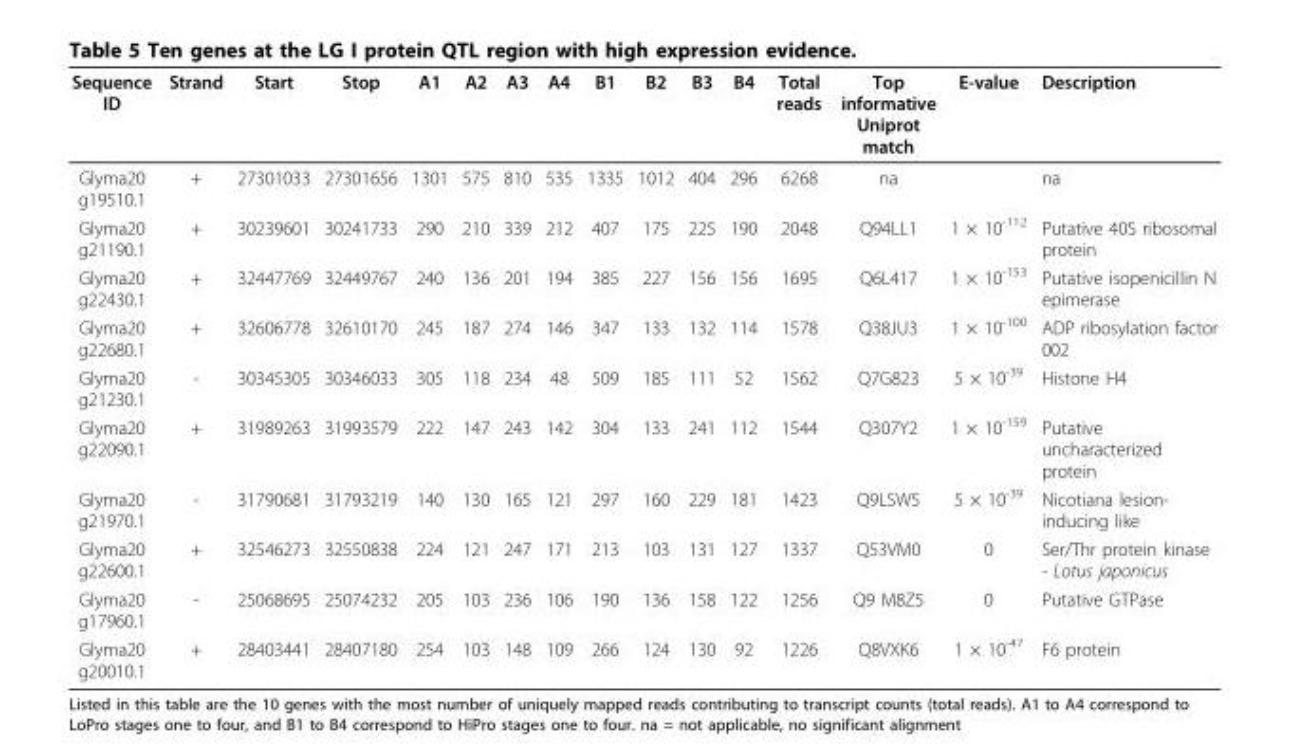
<table><thead><tr><td>Sequence ID</td><td>Strand</td><td>Start</td><td>Stop</td><td>A1</td><td>A2</td><td>A3</td><td>A4</td><td>B1</td><td>B2</td><td>B3</td><td>B4</td><td>Total reads</td><td>Top informative Uniprot match</td><td>E-value</td><td>Description</td></tr></thead><tbody><tr><td>Glyma20 g19510.1</td><td>+</td><td>27301033</td><td>27301656</td><td>1301</td><td>575</td><td>810</td><td>535</td><td>1335</td><td>1012</td><td>404</td><td>296</td><td>6268</td><td>na</td><td></td><td>na</td></tr><tr><td>Glyma20 g21190.1</td><td>+</td><td>30239601</td><td>30241733</td><td>290</td><td>210</td><td>339</td><td>212</td><td>407</td><td>175</td><td>225</td><td>190</td><td>2048</td><td>Q94LL1</td><td>1 × 10<sup>-112</sup></td><td>Putative 40S ribosomal protein</td></tr><tr><td>Glyma20 g22430.1</td><td>+</td><td>32447769</td><td>32449767</td><td>240</td><td>136</td><td>201</td><td>194</td><td>385</td><td>227</td><td>156</td><td>156</td><td>1695</td><td>Q6L417</td><td>1 × 10<sup>-153</sup></td><td>Putative isopenicillin N epimerase</td></tr><tr><td>Glyma20 g22680.1</td><td>+</td><td>32606778</td><td>32610170</td><td>245</td><td>187</td><td>274</td><td>146</td><td>347</td><td>133</td><td>132</td><td>114</td><td>1578</td><td>Q38JU3</td><td>1 × 10<sup>-100</sup></td><td>ADP ribosylation factor 002</td></tr><tr><td>Glyma20 g21230.1</td><td>-</td><td>30345305</td><td>30346033</td><td>305</td><td>118</td><td>234</td><td>48</td><td>509</td><td>185</td><td>111</td><td>52</td><td>1562</td><td>Q7G823</td><td>5 × 10<sup>-39</sup></td><td>Histone H4</td></tr><tr><td>Glyma20 g22090.1</td><td>+</td><td>31989263</td><td>31993579</td><td>222</td><td>147</td><td>243</td><td>142</td><td>304</td><td>133</td><td>241</td><td>112</td><td>1544</td><td>Q307Y2</td><td>1 × 10<sup>-159</sup></td><td>Putative uncharacterized protein</td></tr><tr><td>Glyma20 g21970.1</td><td>-</td><td>31790681</td><td>31793219</td><td>140</td><td>130</td><td>165</td><td>121</td><td>297</td><td>160</td><td>229</td><td>181</td><td>1423</td><td>Q9LSW5</td><td>5 × 10<sup>-39</sup></td><td>Nicotiana lesion- inducing like</td></tr><tr><td>Glyma20 g22600.1</td><td>+</td><td>32546273</td><td>32550838</td><td>224</td><td>121</td><td>247</td><td>171</td><td>213</td><td>103</td><td>131</td><td>127</td><td>1337</td><td>Q53VM0</td><td>0</td><td>Ser/Thr protein kinase - Lotus japonicus</td></tr><tr><td>Glyma20 g17960.1</td><td>-</td><td>25068695</td><td>25074232</td><td>205</td><td>103</td><td>236</td><td>106</td><td>190</td><td>136</td><td>158</td><td>122</td><td>1256</td><td>Q9 M8Z5</td><td>0</td><td>Putative GTPase</td></tr><tr><td>Glyma20 g20010.1</td><td>+</td><td>28403441</td><td>28407180</td><td>254</td><td>103</td><td>148</td><td>109</td><td>266</td><td>124</td><td>130</td><td>92</td><td>1226</td><td>Q8VXK6</td><td>1 × 10<sup>-47</sup></td><td>F6 protein</td></tr></tbody></table>